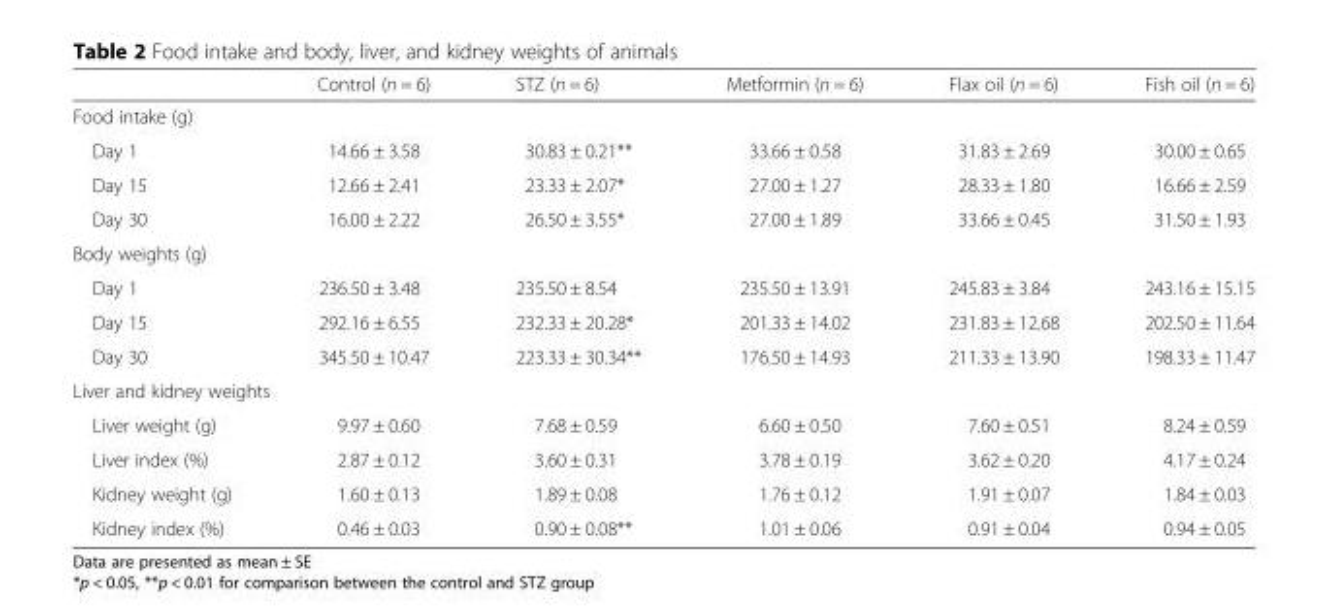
<table><thead><tr><td></td><td>Control (n = 6)</td><td>STZ (n = 6)</td><td>Metformin (n = 6)</td><td>Flax oil (n = 6)</td><td>Fish oil (n = 6)</td></tr></thead><tbody><tr><td colspan="6">Food intake (g)</td></tr><tr><td>Day 1</td><td>14.66 ± 3.58</td><td>30.83 ± 0.21**</td><td>33.66 ± 0.58</td><td>31.83 ± 2.69</td><td>30.00 ± 0.65</td></tr><tr><td>Day 15</td><td>12.66 ± 2.41</td><td>23.33 ± 2.07*</td><td>27.00 ± 1.27</td><td>28.33 ± 1.80</td><td>16.66 ± 2.59</td></tr><tr><td>Day 30</td><td>16.00 ± 2.22</td><td>26.50 ± 3.55*</td><td>27.00 ± 1.89</td><td>33.66 ± 0.45</td><td>31.50 ± 1.93</td></tr><tr><td colspan="6">Body weights (g)</td></tr><tr><td>Day 1</td><td>236.50 ± 3.48</td><td>235.50 ± 8.54</td><td>235.50 ± 13.91</td><td>245.83 ± 3.84</td><td>243.16 ± 15.15</td></tr><tr><td>Day 15</td><td>292.16 ± 6.55</td><td>232.33 ± 20.28*</td><td>201.33 ± 14.02</td><td>231.83 ± 12.68</td><td>202.50 ± 11.64</td></tr><tr><td>Day 30</td><td>345.50 ± 10.47</td><td>223.33 ± 30.34**</td><td>176.50 ± 14.93</td><td>211.33 ± 13.90</td><td>198.33 ± 11.47</td></tr><tr><td colspan="6">Liver and kidney weights</td></tr><tr><td>Liver weight (g)</td><td>9.97 ± 0.60</td><td>7.68 ± 0.59</td><td>6.60 ± 0.50</td><td>7.60 ± 0.51</td><td>8.24 ± 0.59</td></tr><tr><td>Liver index (%)</td><td>2.87 ± 0.12</td><td>3.60 ± 0.31</td><td>3.78 ± 0.19</td><td>3.62 ± 0.20</td><td>4.17 ± 0.24</td></tr><tr><td>Kidney weight (g)</td><td>1.60 ± 0.13</td><td>1.89 ± 0.08</td><td>1.76 ± 0.12</td><td>1.91 ± 0.07</td><td>1.84 ± 0.03</td></tr><tr><td>Kidney index (%)</td><td>0.46 ± 0.03</td><td>0.90 ± 0.08**</td><td>1.01 ± 0.06</td><td>0.91 ± 0.04</td><td>0.94 ± 0.05</td></tr></tbody></table>